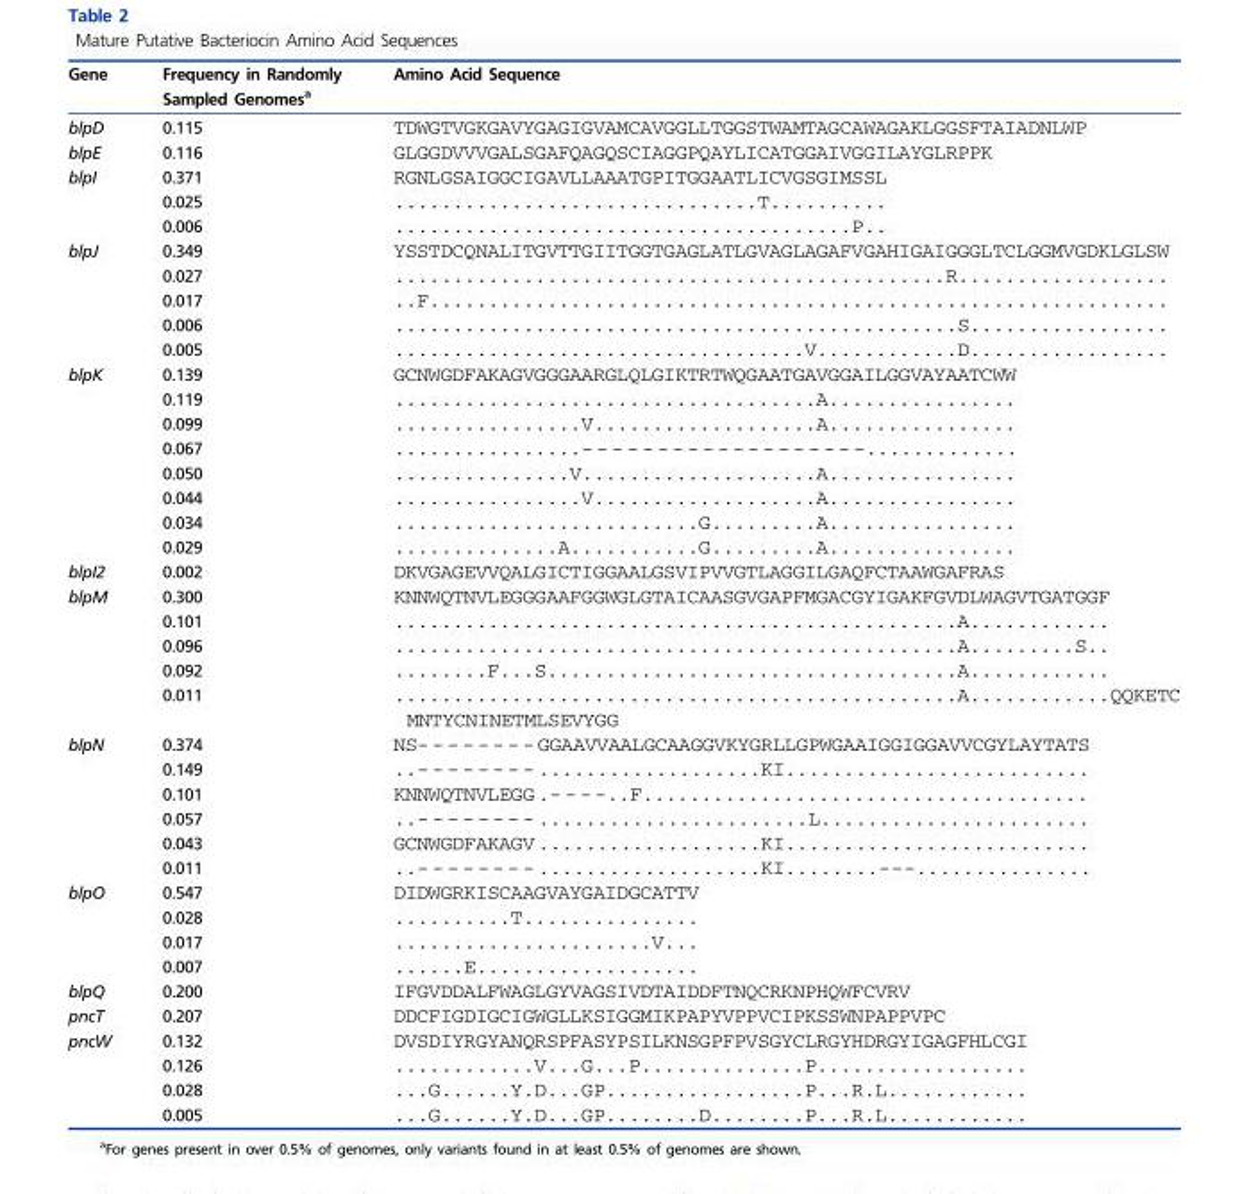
<table><thead><tr><td>Gene</td><td>Frequency in Randomly Sampled Genomes<sup>a</sup></td><td>Amino Acid Sequence</td></tr></thead><tbody><tr><td>blpD</td><td>0.115</td><td>TDWGTVGKGAVYGAGIGVAMCAVGGLLTGGSTWAMTAGCAWAGAKLGGSFTAIADNLWP</td></tr><tr><td>blpE</td><td>0.116</td><td>GLGGDVVVGALSGAFQAGQSCIAGGPQAYLICATGGAIVGGILAYGLRPPK</td></tr><tr><td rowspan="3">blpI</td><td>0.371</td><td>RGNLGSAIGGCIGAVLLAAATGPITGGAATLICVGSGIMSSL</td></tr><tr><td>0.025</td><td>...............................T..........</td></tr><tr><td>0.006</td><td>.......................................P..</td></tr><tr><td rowspan="5">blpJ</td><td>0.349</td><td>YSSTDCQNALITGVTTGIITGGTGAGLATLGVAGLAGAFVGAHIGAIGGGLTCLGGMVGDKLGLSW</td></tr><tr><td>0.027</td><td>...............................................R..................</td></tr><tr><td>0.017</td><td>..F...............................................................</td></tr><tr><td>0.006</td><td>................................................S.................</td></tr><tr><td>0.005</td><td>...................................V............D.................</td></tr><tr><td rowspan="8">blpK</td><td>0.139</td><td>GCNWGDFAKAGVGGGAARGLQLGIKTRTWQGAATGAVGGAILGGVAYAATCWW</td></tr><tr><td>0.119</td><td>....................................A................</td></tr><tr><td>0.099</td><td>................V...................A................</td></tr><tr><td>0.067</td><td>................-------------------.............</td></tr><tr><td>0.050</td><td>...............V....................A................</td></tr><tr><td>0.044</td><td>................V...................A................</td></tr><tr><td>0.034</td><td>..........................G.........A................</td></tr><tr><td>0.029</td><td>..............A...........G.........A................</td></tr><tr><td>blpI2</td><td>0.002</td><td>DKVGAGEVVQALGICTIGGAALGSVIPVVGTLAGGILGAQFCTAAWGAFRAS</td></tr><tr><td rowspan="5">blpM</td><td>0.300</td><td>KNNWQTNVLEGGGAAFGGWGLGTAICAASGVGAPFMGACGYIGAKFGVDLWAGVTGATGGF</td></tr><tr><td>0.101</td><td>................................................A............</td></tr><tr><td>0.096</td><td>................................................A.........S..</td></tr><tr><td>0.092</td><td>........F...S...................................A............</td></tr><tr><td>0.011</td><td>................................................A............QQKETC MNTYCNINETMLSEVYGG</td></tr><tr><td rowspan="6">blpN</td><td>0.374</td><td>NS--------GGAAVVAALGCAAGGVKYGRLLGPWGAAIGGIGGAVVCGYLAYTATS</td></tr><tr><td>0.149</td><td>..--------...................KI..........................</td></tr><tr><td>0.101</td><td>KNNWQTNVLEGG.----..F......................................</td></tr><tr><td>0.057</td><td>..--------.......................L.......................</td></tr><tr><td>0.043</td><td>GCNWGDFAKAGV...................KI..........................</td></tr><tr><td>0.011</td><td>..--------...................KI........---...............</td></tr><tr><td rowspan="4">blpO</td><td>0.547</td><td>DIDWGRKISCAAGVAYGAIDGCATTV</td></tr><tr><td>0.028</td><td>..........T...............</td></tr><tr><td>0.017</td><td>......................V...</td></tr><tr><td>0.007</td><td>......E...................</td></tr><tr><td>blpQ</td><td>0.200</td><td>IFGVDDALFWAGLGYVAGSIVDTAIDDFTNQCRKNPHQWFCVRV</td></tr><tr><td>pncT</td><td>0.207</td><td>DDCFIGDIGCIGWGLLKSIGGMIKPAPYVPPVCIPKSSWNPAPPVPC</td></tr><tr><td rowspan="4">pncW</td><td>0.132</td><td>DVSDIYRGYANQRSPFASYPSILKNSGPFPVSGYCLRGYHDRGYIGAGFHLCGI</td></tr><tr><td>0.126</td><td>............V...G...P..............P..................</td></tr><tr><td>0.028</td><td>...G......Y.D...GP.................P...R.L............</td></tr><tr><td>0.005</td><td>...G......Y.D...GP........D........P...R.L............</td></tr></tbody></table>